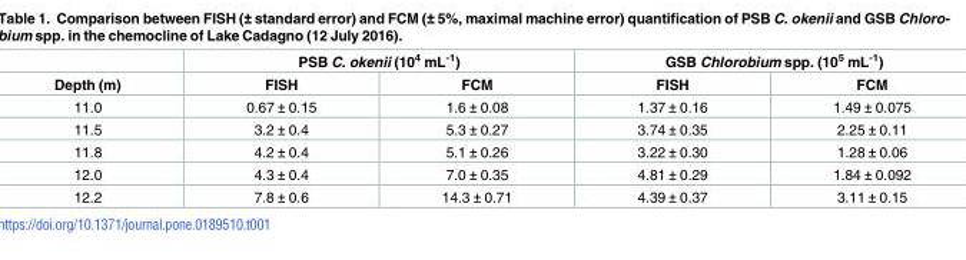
<table><thead><tr><td rowspan="2">Depth (m)</td><td colspan="2">PSB C. okenii (10<sup>4</sup> mL<sup>-1</sup>)</td><td colspan="2">GSB Chlorobium spp. (10<sup>5</sup> mL<sup>-1</sup>)</td></tr><tr><td>FISH</td><td>FCM</td><td>FISH</td><td>FCM</td></tr></thead><tbody><tr><td>11.0</td><td>0.67 ± 0.15</td><td>1.6 ± 0.08</td><td>1.37 ± 0.16</td><td>1.49 ± 0.075</td></tr><tr><td>11.5</td><td>3.2 ± 0.4</td><td>5.3 ± 0.27</td><td>3.74 ± 0.35</td><td>2.25 ± 0.11</td></tr><tr><td>11.8</td><td>4.2 ± 0.4</td><td>5.1 ± 0.26</td><td>3.22 ± 0.30</td><td>1.28 ± 0.06</td></tr><tr><td>12.0</td><td>4.3 ± 0.4</td><td>7.0 ± 0.35</td><td>4.81 ± 0.29</td><td>1.84 ± 0.092</td></tr><tr><td>12.2</td><td>7.8 ± 0.6</td><td>14.3 ± 0.71</td><td>4.39 ± 0.37</td><td>3.11 ± 0.15</td></tr></tbody></table>